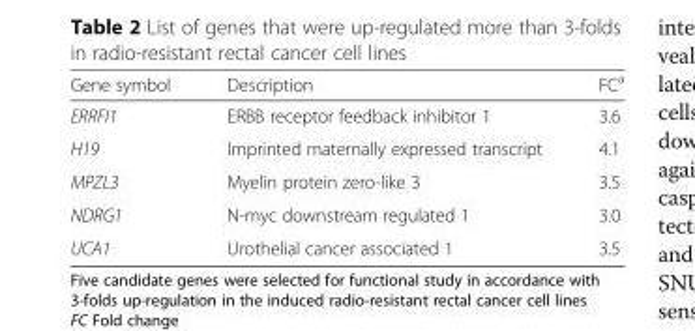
<table><thead><tr><td>Gene symbol</td><td>Description</td><td>FC<sup>a</sup></td></tr></thead><tbody><tr><td>ERRFI1</td><td>ERBB receptor feedback inhibitor 1</td><td>3.6</td></tr><tr><td>H19</td><td>Imprinted maternally expressed transcript</td><td>4.1</td></tr><tr><td>MPZL3</td><td>Myelin protein zero-like 3</td><td>3.5</td></tr><tr><td>NDRG1</td><td>N-myc downstream regulated 1</td><td>3.0</td></tr><tr><td>UCA1</td><td>Urothelial cancer associated 1</td><td>3.5</td></tr></tbody></table>